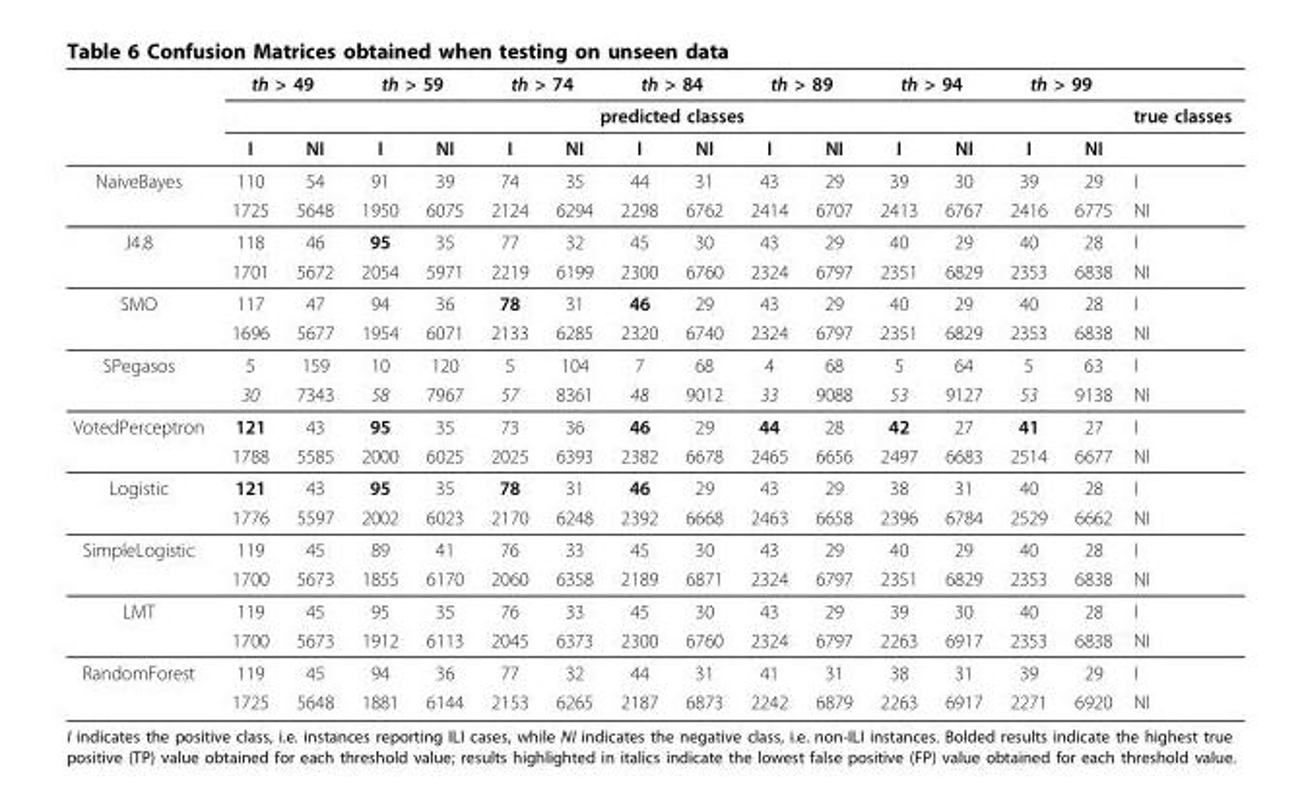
<table><thead><tr><td rowspan="3"></td><td colspan="2">th &gt; 49</td><td colspan="2">th &gt; 59</td><td colspan="2">th &gt; 74</td><td colspan="2">th &gt; 84</td><td colspan="2">th &gt; 89</td><td colspan="2">th &gt; 94</td><td colspan="2">th &gt; 99</td><td rowspan="3">true classes</td></tr><tr><td colspan="14">predicted classes</td></tr><tr><td>I</td><td>NI</td><td>I</td><td>NI</td><td>I</td><td>NI</td><td>I</td><td>NI</td><td>I</td><td>NI</td><td>I</td><td>NI</td><td>I</td><td>NI</td></tr></thead><tbody><tr><td rowspan="2">NaiveBayes</td><td>110</td><td>54</td><td>91</td><td>39</td><td>74</td><td>35</td><td>44</td><td>31</td><td>43</td><td>29</td><td>39</td><td>30</td><td>39</td><td>29</td><td>I</td></tr><tr><td>1725</td><td>5648</td><td>1950</td><td>6075</td><td>2124</td><td>6294</td><td>2298</td><td>6762</td><td>2414</td><td>6707</td><td>2413</td><td>6767</td><td>2416</td><td>6775</td><td>NI</td></tr><tr><td rowspan="2">J4.8</td><td>118</td><td>46</td><td>95</td><td>35</td><td>77</td><td>32</td><td>45</td><td>30</td><td>43</td><td>29</td><td>40</td><td>29</td><td>40</td><td>28</td><td>I</td></tr><tr><td>1701</td><td>5672</td><td>2054</td><td>5971</td><td>2219</td><td>6199</td><td>2300</td><td>6760</td><td>2324</td><td>6797</td><td>2351</td><td>6829</td><td>2353</td><td>6838</td><td>NI</td></tr><tr><td rowspan="2">SMO</td><td>117</td><td>47</td><td>94</td><td>36</td><td>78</td><td>31</td><td>46</td><td>29</td><td>43</td><td>29</td><td>40</td><td>29</td><td>40</td><td>28</td><td>I</td></tr><tr><td>1696</td><td>5677</td><td>1954</td><td>6071</td><td>2133</td><td>6285</td><td>2320</td><td>6740</td><td>2324</td><td>6797</td><td>2351</td><td>6829</td><td>2353</td><td>6838</td><td>NI</td></tr><tr><td rowspan="2">SPegasos</td><td>5</td><td>159</td><td>10</td><td>120</td><td>5</td><td>104</td><td>7</td><td>68</td><td>4</td><td>68</td><td>5</td><td>64</td><td>5</td><td>63</td><td>I</td></tr><tr><td>30</td><td>7343</td><td>58</td><td>7967</td><td>57</td><td>8361</td><td>48</td><td>9012</td><td>33</td><td>9088</td><td>53</td><td>9127</td><td>53</td><td>9138</td><td>NI</td></tr><tr><td rowspan="2">VotedPerceptron</td><td>121</td><td>43</td><td>95</td><td>35</td><td>73</td><td>36</td><td>46</td><td>29</td><td>44</td><td>28</td><td>42</td><td>27</td><td>41</td><td>27</td><td>I</td></tr><tr><td>1788</td><td>5585</td><td>2000</td><td>6025</td><td>2025</td><td>6393</td><td>2382</td><td>6678</td><td>2465</td><td>6656</td><td>2497</td><td>6683</td><td>2514</td><td>6677</td><td>NI</td></tr><tr><td rowspan="2">Logistic</td><td>121</td><td>43</td><td>95</td><td>35</td><td>78</td><td>31</td><td>46</td><td>29</td><td>43</td><td>29</td><td>38</td><td>31</td><td>40</td><td>28</td><td>I</td></tr><tr><td>1776</td><td>5597</td><td>2002</td><td>6023</td><td>2170</td><td>6248</td><td>2392</td><td>6668</td><td>2463</td><td>6658</td><td>2396</td><td>6784</td><td>2529</td><td>6662</td><td>NI</td></tr><tr><td rowspan="2">SimpleLogistic</td><td>119</td><td>45</td><td>89</td><td>41</td><td>76</td><td>33</td><td>45</td><td>30</td><td>43</td><td>29</td><td>40</td><td>29</td><td>40</td><td>28</td><td>I</td></tr><tr><td>1700</td><td>5673</td><td>1855</td><td>6170</td><td>2060</td><td>6358</td><td>2189</td><td>6871</td><td>2324</td><td>6797</td><td>2351</td><td>6829</td><td>2353</td><td>6838</td><td>NI</td></tr><tr><td rowspan="2">LMT</td><td>119</td><td>45</td><td>95</td><td>35</td><td>76</td><td>33</td><td>45</td><td>30</td><td>43</td><td>29</td><td>39</td><td>30</td><td>40</td><td>28</td><td>I</td></tr><tr><td>1700</td><td>5673</td><td>1912</td><td>6113</td><td>2045</td><td>6373</td><td>2300</td><td>6760</td><td>2324</td><td>6797</td><td>2263</td><td>6917</td><td>2353</td><td>6838</td><td>NI</td></tr><tr><td rowspan="2">RandomForest</td><td>119</td><td>45</td><td>94</td><td>36</td><td>77</td><td>32</td><td>44</td><td>31</td><td>41</td><td>31</td><td>38</td><td>31</td><td>39</td><td>29</td><td>I</td></tr><tr><td>1725</td><td>5648</td><td>1881</td><td>6144</td><td>2153</td><td>6265</td><td>2187</td><td>6873</td><td>2242</td><td>6879</td><td>2263</td><td>6917</td><td>2271</td><td>6920</td><td>NI</td></tr></tbody></table>